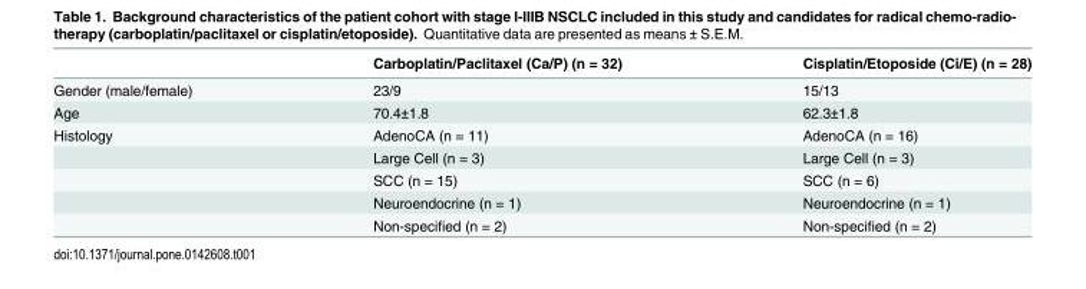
<table><thead><tr><td></td><td>Carboplatin/Paclitaxel (Ca/P) (n = 32)</td><td>Cisplatin/Etoposide (Ci/E) (n = 28)</td></tr></thead><tbody><tr><td>Gender (male/female)</td><td>23/9</td><td>15/13</td></tr><tr><td>Age</td><td>70.4±1.8</td><td>62.3±1.8</td></tr><tr><td rowspan="5">Histology</td><td>AdenoCA (n = 11)</td><td>AdenoCA (n = 16)</td></tr><tr><td>Large Cell (n = 3)</td><td>Large Cell (n = 3)</td></tr><tr><td>SCC (n = 15)</td><td>SCC (n = 6)</td></tr><tr><td>Neuroendocrine (n = 1)</td><td>Neuroendocrine (n = 1)</td></tr><tr><td>Non-specified (n = 2)</td><td>Non-specified (n = 2)</td></tr></tbody></table>